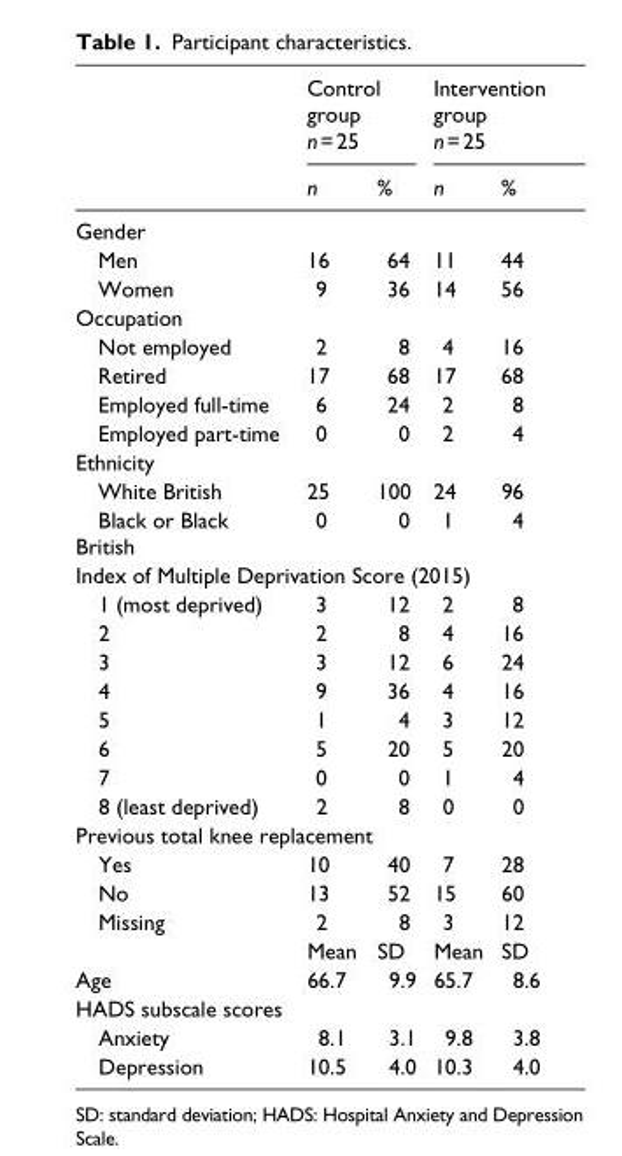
<table><thead><tr><td rowspan="2"></td><td colspan="2">Control group n = 25</td><td colspan="2">Intervention group n = 25</td></tr><tr><td>n</td><td>%</td><td>n</td><td>%</td></tr></thead><tbody><tr><td colspan="5">Gender</td></tr><tr><td>Men</td><td>16</td><td>64</td><td>11</td><td>44</td></tr><tr><td>Women</td><td>9</td><td>36</td><td>14</td><td>56</td></tr><tr><td colspan="5">Occupation</td></tr><tr><td>Not employed</td><td>2</td><td>8</td><td>4</td><td>16</td></tr><tr><td>Retired</td><td>17</td><td>68</td><td>17</td><td>68</td></tr><tr><td>Employed full-time</td><td>6</td><td>24</td><td>2</td><td>8</td></tr><tr><td>Employed part-time</td><td>0</td><td>0</td><td>2</td><td>4</td></tr><tr><td colspan="5">Ethnicity</td></tr><tr><td>White British</td><td>25</td><td>100</td><td>24</td><td>96</td></tr><tr><td>Black or Black British</td><td>0</td><td>0</td><td>1</td><td>4</td></tr><tr><td colspan="5">Index of Multiple Deprivation Score (2015)</td></tr><tr><td>1 (most deprived)</td><td>3</td><td>12</td><td>2</td><td>8</td></tr><tr><td>2</td><td>2</td><td>8</td><td>4</td><td>16</td></tr><tr><td>3</td><td>3</td><td>12</td><td>6</td><td>24</td></tr><tr><td>4</td><td>9</td><td>36</td><td>4</td><td>16</td></tr><tr><td>5</td><td>1</td><td>4</td><td>3</td><td>12</td></tr><tr><td>6</td><td>5</td><td>20</td><td>5</td><td>20</td></tr><tr><td>7</td><td>0</td><td>0</td><td>1</td><td>4</td></tr><tr><td>8 (least deprived)</td><td>2</td><td>8</td><td>0</td><td>0</td></tr><tr><td colspan="5">Previous total knee replacement</td></tr><tr><td>Yes</td><td>10</td><td>40</td><td>7</td><td>28</td></tr><tr><td>No</td><td>13</td><td>52</td><td>15</td><td>60</td></tr><tr><td rowspan="2">Missing</td><td>2</td><td>8</td><td>3</td><td>12</td></tr><tr><td>Mean</td><td>SD</td><td>Mean</td><td>SD</td></tr><tr><td>Age</td><td>66.7</td><td>9.9</td><td>65.7</td><td>8.6</td></tr><tr><td colspan="5">HADS subscale scores</td></tr><tr><td>Anxiety</td><td>8.1</td><td>3.1</td><td>9.8</td><td>3.8</td></tr><tr><td>Depression</td><td>10.5</td><td>4.0</td><td>10.3</td><td>4.0</td></tr></tbody></table>